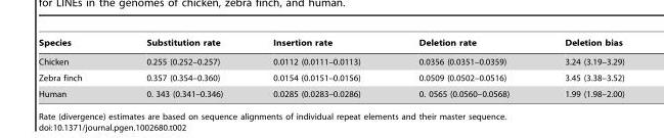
<table><thead><tr><td>Species</td><td>Substitution rate</td><td>Insertion rate</td><td>Deletion rate</td><td>Deletion bias</td></tr></thead><tbody><tr><td>Chicken</td><td>0.255 (0.252–0.257)</td><td>0.0112 (0.0111–0.0113)</td><td>0.0356 (0.0351–0.0359)</td><td>3.24 (3.19–3.29)</td></tr><tr><td>Zebra finch</td><td>0.357 (0.354–0.360)</td><td>0.0154 (0.0151–0.0156)</td><td>0.0509 (0.0502–0.0516)</td><td>3.45 (3.38–3.52)</td></tr><tr><td>Human</td><td>0. 343 (0.341–0.346)</td><td>0.0285 (0.0283–0.0286)</td><td>0. 0565 (0.0560–0.0568)</td><td>1.99 (1.98–2.00)</td></tr></tbody></table>